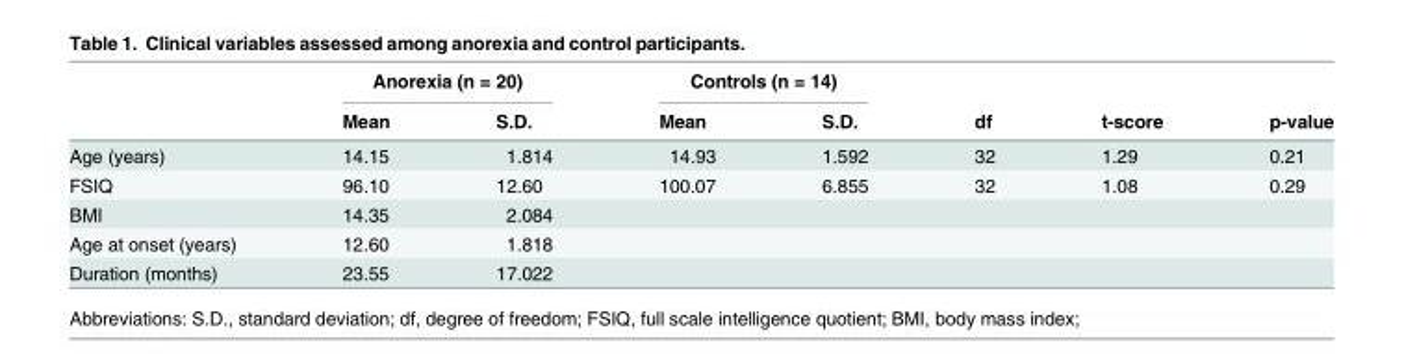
<table><thead><tr><td rowspan="2"></td><td colspan="2">Anorexia (n = 20)</td><td colspan="2">Controls (n = 14)</td><td rowspan="2">df</td><td rowspan="2">t-score</td><td rowspan="2">p-value</td></tr><tr><td>Mean</td><td>S.D.</td><td>Mean</td><td>S.D.</td></tr></thead><tbody><tr><td>Age (years)</td><td>14.15</td><td>1.814</td><td>14.93</td><td>1.592</td><td>32</td><td>1.29</td><td>0.21</td></tr><tr><td>FSIQ</td><td>96.10</td><td>12.60</td><td>100.07</td><td>6.855</td><td>32</td><td>1.08</td><td>0.29</td></tr><tr><td>BMI</td><td>14.35</td><td>2.084</td><td></td><td></td><td></td><td></td><td></td></tr><tr><td>Age at onset (years)</td><td>12.60</td><td>1.818</td><td></td><td></td><td></td><td></td><td></td></tr><tr><td>Duration (months)</td><td>23.55</td><td>17.022</td><td></td><td></td><td></td><td></td><td></td></tr></tbody></table>